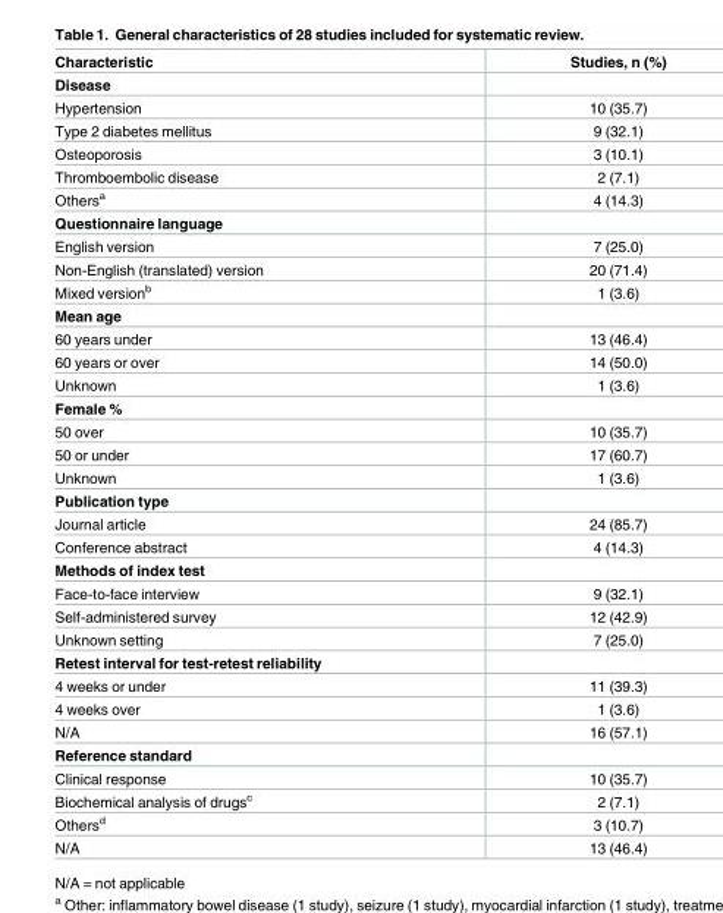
<table><thead><tr><td>Characteristic</td><td>Studies, n (%)</td></tr></thead><tbody><tr><td colspan="2">Disease</td></tr><tr><td>Hypertension</td><td>10 (35.7)</td></tr><tr><td>Type 2 diabetes mellitus</td><td>9 (32.1)</td></tr><tr><td>Osteoporosis</td><td>3 (10.1)</td></tr><tr><td>Thromboembolic disease</td><td>2 (7.1)</td></tr><tr><td>Others<sup>a</sup></td><td>4 (14.3)</td></tr><tr><td colspan="2">Questionnaire language</td></tr><tr><td>English version</td><td>7 (25.0)</td></tr><tr><td>Non-English (translated) version</td><td>20 (71.4)</td></tr><tr><td>Mixed version<sup>b</sup></td><td>1 (3.6)</td></tr><tr><td colspan="2">Mean age</td></tr><tr><td>60 years under</td><td>13 (46.4)</td></tr><tr><td>60 years or over</td><td>14 (50.0)</td></tr><tr><td>Unknown</td><td>1 (3.6)</td></tr><tr><td colspan="2">Female %</td></tr><tr><td>50 over</td><td>10 (35.7)</td></tr><tr><td>50 or under</td><td>17 (60.7)</td></tr><tr><td>Unknown</td><td>1 (3.6)</td></tr><tr><td colspan="2">Publication type</td></tr><tr><td>Journal article</td><td>24 (85.7)</td></tr><tr><td>Conference abstract</td><td>4 (14.3)</td></tr><tr><td colspan="2">Methods of index test</td></tr><tr><td>Face-to-face interview</td><td>9 (32.1)</td></tr><tr><td>Self-administered survey</td><td>12 (42.9)</td></tr><tr><td>Unknown setting</td><td>7 (25.0)</td></tr><tr><td colspan="2">Retest interval for test-retest reliability</td></tr><tr><td>4 weeks or under</td><td>11 (39.3)</td></tr><tr><td>4 weeks over</td><td>1 (3.6)</td></tr><tr><td>N/A</td><td>16 (57.1)</td></tr><tr><td colspan="2">Reference standard</td></tr><tr><td>Clinical response</td><td>10 (35.7)</td></tr><tr><td>Biochemical analysis of drugs<sup>c</sup></td><td>2 (7.1)</td></tr><tr><td>Others<sup>d</sup></td><td>3 (10.7)</td></tr><tr><td>N/A</td><td>13 (46.4)</td></tr></tbody></table>